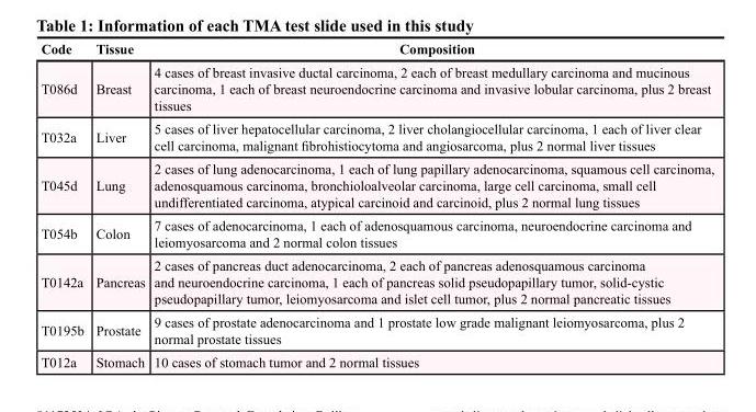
<table><thead><tr><td>Code</td><td>Tissue</td><td>Composition</td></tr></thead><tbody><tr><td>T086d</td><td>Breast</td><td>4 cases of breast invasive ductal carcinoma, 2 each of breast medullary carcinoma and mucinous carcinoma, 1 each of breast neuroendocrine carcinoma and invasive lobular carcinoma, plus 2 breast tissues</td></tr><tr><td>T032a</td><td>Liver</td><td>5 cases of liver hepatocellular carcinoma, 2 liver cholangiocellular carcinoma, 1 each of liver clear cell carcinoma, malignant fibrohistiocytoma and angiosarcoma, plus 2 normal liver tissues</td></tr><tr><td>T045d</td><td>Lung</td><td>2 cases of lung adenocarcinoma, 1 each of lung papillary adenocarcinoma, squamous cell carcinoma, adenosquamous carcinoma, bronchioloalveolar carcinoma, large cell carcinoma, small cell undifferentiated carcinoma, atypical carcinoid and carcinoid, plus 2 normal lung tissues</td></tr><tr><td>T054b</td><td>Colon</td><td>7 cases of adenocarcinoma, 1 each of adenosquamous carcinoma, neuroendocrine carcinoma and leiomyosarcoma and 2 normal colon tissues</td></tr><tr><td>T0142a</td><td>Pancreas</td><td>2 cases of pancreas duct adenocarcinoma, 2 each of pancreas adenosquamous carcinoma and neuroendocrine carcinoma, 1 each of pancreas solid pseudopapillary tumor, solid-cystic pseudopapillary tumor, leiomyosarcoma and islet cell tumor, plus 2 normal pancreatic tissues</td></tr><tr><td>T0195b</td><td>Prostate</td><td>9 cases of prostate adenocarcinoma and 1 prostate low grade malignant leiomyosarcoma, plus 2 normal prostate tissues</td></tr><tr><td>T012a</td><td>Stomach</td><td>10 cases of stomach tumor and 2 normal tissues</td></tr></tbody></table>